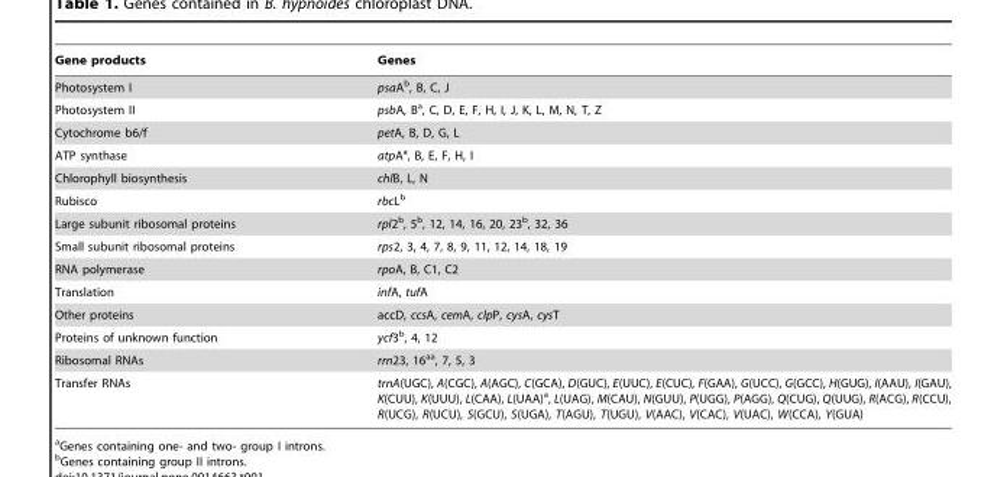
<table><thead><tr><td>Gene products</td><td>Genes</td></tr></thead><tbody><tr><td>Photosystem I</td><td>psaA<sup>b</sup>, B, C, J</td></tr><tr><td>Photosystem II</td><td>psbA, B<sup>a</sup>, C, D, E, F, H, I, J, K, L, M, N, T, Z</td></tr><tr><td>Cytochrome b6/f</td><td>petA, B, D, G, L</td></tr><tr><td>ATP synthase</td><td>atpA<sup>a</sup>, B, E, F, H, I</td></tr><tr><td>Chlorophyll biosynthesis</td><td>chlB, L, N</td></tr><tr><td>Rubisco</td><td>rbcL<sup>b</sup></td></tr><tr><td>Large subunit ribosomal proteins</td><td>rpl2<sup>b</sup>, 5<sup>b</sup>, 12, 14, 16, 20, 23<sup>b</sup>, 32, 36</td></tr><tr><td>Small subunit ribosomal proteins</td><td>rps2, 3, 4, 7, 8, 9, 11, 12, 14, 18, 19</td></tr><tr><td>RNA polymerase</td><td>rpoA, B, C1, C2</td></tr><tr><td>Translation</td><td>infA, tufA</td></tr><tr><td>Other proteins</td><td>accD, ccsA, cemA, clpP, cysA, cysT</td></tr><tr><td>Proteins of unknown function</td><td>ycf3<sup>b</sup>, 4, 12</td></tr><tr><td>Ribosomal RNAs</td><td>rrn23, 16<sup>aa</sup>, 7, 5, 3</td></tr><tr><td>Transfer RNAs</td><td>trnA(UGC), A(CGC), A(AGC), C(GCA), D(GUC), E(UUC), E(CUC), F(GAA), G(UCC), G(GCC), H(GUG), I(AAU), I(GAU), K(CUU), K(UUU), L(CAA), L(UAA)a, L(UAG), M(CAU), N(GUU), P(UGG), P(AGG), Q(CUG), Q(UUG), R(ACG), R(CCU), R(UCG), R(UCU), S(GCU), S(UGA), T(AGU), T(UGU), V(AAC), V(CAC), V(UAC), W(CCA), Y(GUA)</td></tr></tbody></table>